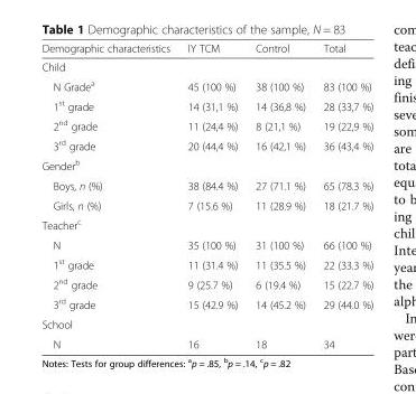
<table><thead><tr><td>Demographic characteristics</td><td>IY TCM</td><td>Control</td><td>Total</td></tr></thead><tbody><tr><td colspan="4">Child</td></tr><tr><td>N Grade<sup>a</sup></td><td>45 (100 %)</td><td>38 (100 %)</td><td>83 (100 %)</td></tr><tr><td>1<sup>st</sup> grade</td><td>14 (31,1 %)</td><td>14 (36,8 %)</td><td>28 (33,7 %)</td></tr><tr><td>2<sup>nd</sup> grade</td><td>11 (24,4 %)</td><td>8 (21,1 %)</td><td>19 (22,9 %)</td></tr><tr><td>3<sup>rd</sup> grade</td><td>20 (44,4 %)</td><td>16 (42,1 %)</td><td>36 (43,4 %)</td></tr><tr><td colspan="4">Gender<sup>b</sup></td></tr><tr><td>Boys, n (%)</td><td>38 (84.4 %)</td><td>27 (71.1 %)</td><td>65 (78.3 %)</td></tr><tr><td>Girls, n (%)</td><td>7 (15.6 %)</td><td>11 (28.9 %)</td><td>18 (21.7 %)</td></tr><tr><td colspan="4">Teacher<sup>c</sup></td></tr><tr><td>N</td><td>35 (100 %)</td><td>31 (100 %)</td><td>66 (100 %)</td></tr><tr><td>1<sup>st</sup> grade</td><td>11 (31.4 %)</td><td>11 (35.5 %)</td><td>22 (33.3 %)</td></tr><tr><td>2<sup>nd</sup> grade</td><td>9 (25.7 %)</td><td>6 (19.4 %)</td><td>15 (22.7 %)</td></tr><tr><td>3<sup>rd</sup> grade</td><td>15 (42.9 %)</td><td>14 (45.2 %)</td><td>29 (44.0 %)</td></tr><tr><td colspan="4">School</td></tr><tr><td>N</td><td>16</td><td>18</td><td>34</td></tr></tbody></table>